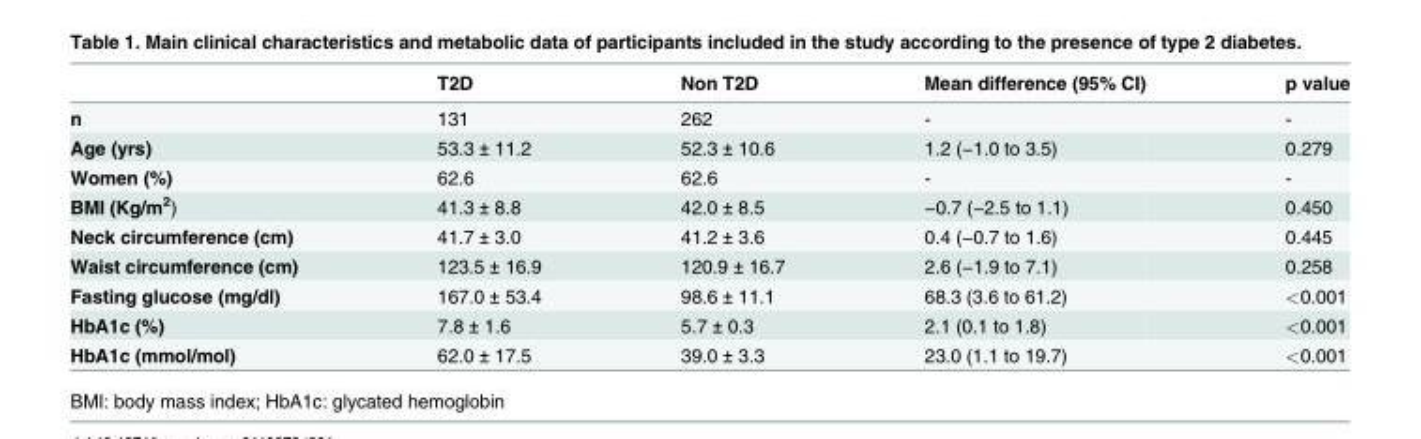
<table><thead><tr><td></td><td>T2D</td><td>Non T2D</td><td>Mean difference (95% CI)</td><td>p value</td></tr></thead><tbody><tr><td>n</td><td>131</td><td>262</td><td>-</td><td>-</td></tr><tr><td>Age (yrs)</td><td>53.3 ± 11.2</td><td>52.3 ± 10.6</td><td>1.2 (−1.0 to 3.5)</td><td>0.279</td></tr><tr><td>Women (%)</td><td>62.6</td><td>62.6</td><td>-</td><td>-</td></tr><tr><td>BMI (Kg/m<sup>2</sup>)</td><td>41.3 ± 8.8</td><td>42.0 ± 8.5</td><td>−0.7 (−2.5 to 1.1)</td><td>0.450</td></tr><tr><td>Neck circumference (cm)</td><td>41.7 ± 3.0</td><td>41.2 ± 3.6</td><td>0.4 (−0.7 to 1.6)</td><td>0.445</td></tr><tr><td>Waist circumference (cm)</td><td>123.5 ± 16.9</td><td>120.9 ± 16.7</td><td>2.6 (−1.9 to 7.1)</td><td>0.258</td></tr><tr><td>Fasting glucose (mg/dl)</td><td>167.0 ± 53.4</td><td>98.6 ± 11.1</td><td>68.3 (3.6 to 61.2)</td><td>&lt;0.001</td></tr><tr><td>HbA1c (%)</td><td>7.8 ± 1.6</td><td>5.7 ± 0.3</td><td>2.1 (0.1 to 1.8)</td><td>&lt;0.001</td></tr><tr><td>HbA1c (mmol/mol)</td><td>62.0 ± 17.5</td><td>39.0 ± 3.3</td><td>23.0 (1.1 to 19.7)</td><td>&lt;0.001</td></tr></tbody></table>